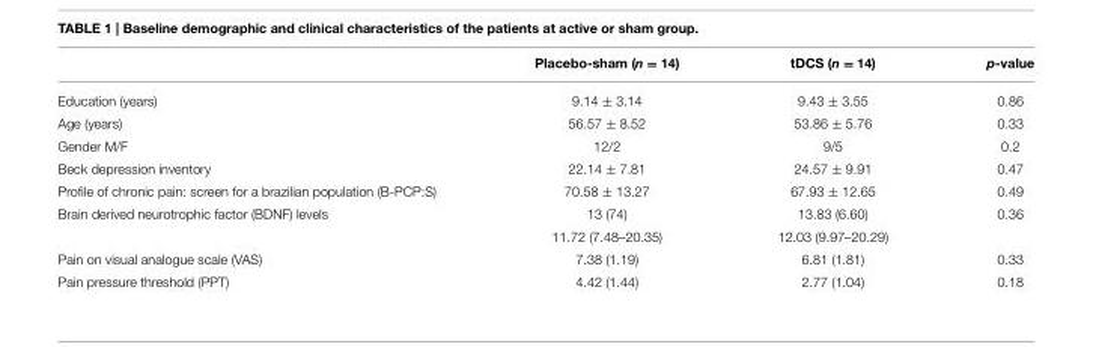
<table><thead><tr><td></td><td>Placebo-sham (n = 14)</td><td>tDCS (n = 14)</td><td>p-value</td></tr></thead><tbody><tr><td>Education (years)</td><td>9.14 ± 3.14</td><td>9.43 ± 3.55</td><td>0.86</td></tr><tr><td>Age (years)</td><td>56.57 ± 8.52</td><td>53.86 ± 5.76</td><td>0.33</td></tr><tr><td>Gender M/F</td><td>12/2</td><td>9/5</td><td>0.2</td></tr><tr><td>Beck depression inventory</td><td>22.14 ± 7.81</td><td>24.57 ± 9.91</td><td>0.47</td></tr><tr><td>Profile of chronic pain: screen for a brazilian population (B-PCP:S)</td><td>70.58 ± 13.27</td><td>67.93 ± 12.65</td><td>0.49</td></tr><tr><td rowspan="2">Brain derived neurotrophic factor (BDNF) levels</td><td>13 (74)</td><td>13.83 (6.60)</td><td>0.36</td></tr><tr><td>11.72 (7.48–20.35)</td><td>12.03 (9.97–20.29)</td><td></td></tr><tr><td>Pain on visual analogue scale (VAS)</td><td>7.38 (1.19)</td><td>6.81 (1.81)</td><td>0.33</td></tr><tr><td>Pain pressure threshold (PPT)</td><td>4.42 (1.44)</td><td>2.77 (1.04)</td><td>0.18</td></tr></tbody></table>